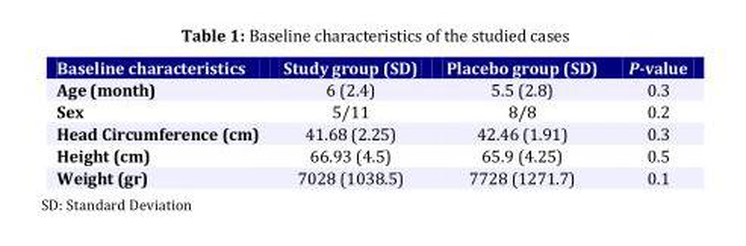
<table><thead><tr><td>Baseline characteristics</td><td>Study group (SD)</td><td>Placebo group (SD)</td><td>P-value</td></tr></thead><tbody><tr><td>Age (month)</td><td>6 (2.4)</td><td>5.5 (2.8)</td><td>0.3</td></tr><tr><td>Sex</td><td>5/11</td><td>8/8</td><td>0.2</td></tr><tr><td>Head Circumference (cm)</td><td>41.68 (2.25)</td><td>42.46 (1.91)</td><td>0.3</td></tr><tr><td>Height (cm)</td><td>66.93 (4.5)</td><td>65.9 (4.25)</td><td>0.5</td></tr><tr><td>Weight (gr)</td><td>7028 (1038.5)</td><td>7728 (1271.7)</td><td>0.1</td></tr></tbody></table>